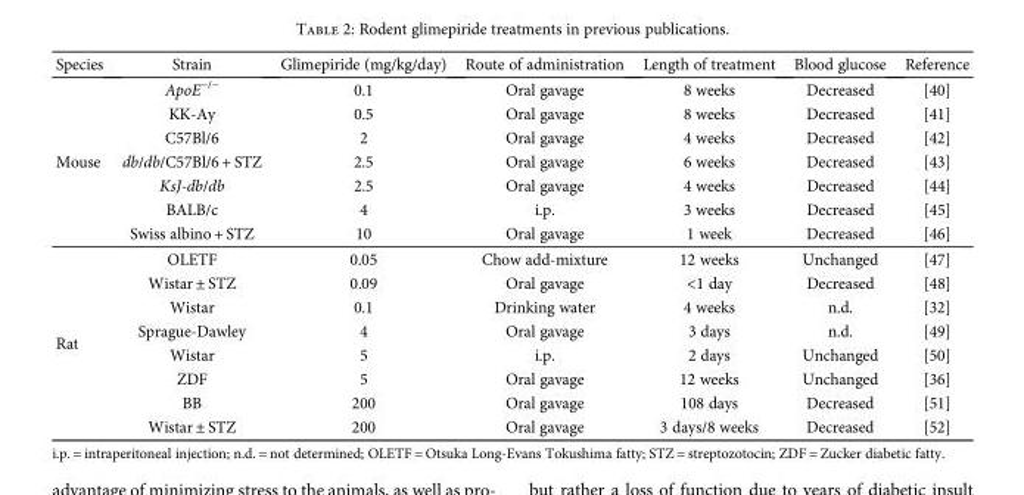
<table><thead><tr><td>Species</td><td>Strain</td><td>Glimepiride (mg/kg/day)</td><td>Route of administration</td><td>Length of treatment</td><td>Blood glucose</td><td>Reference</td></tr></thead><tbody><tr><td rowspan="7">Mouse</td><td>ApoE<sup>−/−</sup></td><td>0.1</td><td>Oral gavage</td><td>8 weeks</td><td>Decreased</td><td>[40]</td></tr><tr><td>KK-Ay</td><td>0.5</td><td>Oral gavage</td><td>8 weeks</td><td>Decreased</td><td>[41]</td></tr><tr><td>C57Bl/6</td><td>2</td><td>Oral gavage</td><td>4 weeks</td><td>Decreased</td><td>[42]</td></tr><tr><td>db/db/C57Bl/6 + STZ</td><td>2.5</td><td>Oral gavage</td><td>6 weeks</td><td>Decreased</td><td>[43]</td></tr><tr><td>KsJ-db/db</td><td>2.5</td><td>Oral gavage</td><td>4 weeks</td><td>Decreased</td><td>[44]</td></tr><tr><td>BALB/c</td><td>4</td><td>i.p.</td><td>3 weeks</td><td>Decreased</td><td>[45]</td></tr><tr><td>Swiss albino + STZ</td><td>10</td><td>Oral gavage</td><td>1 week</td><td>Decreased</td><td>[46]</td></tr><tr><td rowspan="8">Rat</td><td>OLETF</td><td>0.05</td><td>Chow add-mixture</td><td>12 weeks</td><td>Unchanged</td><td>[47]</td></tr><tr><td>Wistar ± STZ</td><td>0.09</td><td>Oral gavage</td><td>&lt;1 day</td><td>Decreased</td><td>[48]</td></tr><tr><td>Wistar</td><td>0.1</td><td>Drinking water</td><td>4 weeks</td><td>n.d.</td><td>[32]</td></tr><tr><td>Sprague-Dawley</td><td>4</td><td>Oral gavage</td><td>3 days</td><td>n.d.</td><td>[49]</td></tr><tr><td>Wistar</td><td>5</td><td>i.p.</td><td>2 days</td><td>Unchanged</td><td>[50]</td></tr><tr><td>ZDF</td><td>5</td><td>Oral gavage</td><td>12 weeks</td><td>Unchanged</td><td>[36]</td></tr><tr><td>BB</td><td>200</td><td>Oral gavage</td><td>108 days</td><td>Decreased</td><td>[51]</td></tr><tr><td>Wistar ± STZ</td><td>200</td><td>Oral gavage</td><td>3 days/8 weeks</td><td>Decreased</td><td>[52]</td></tr></tbody></table>